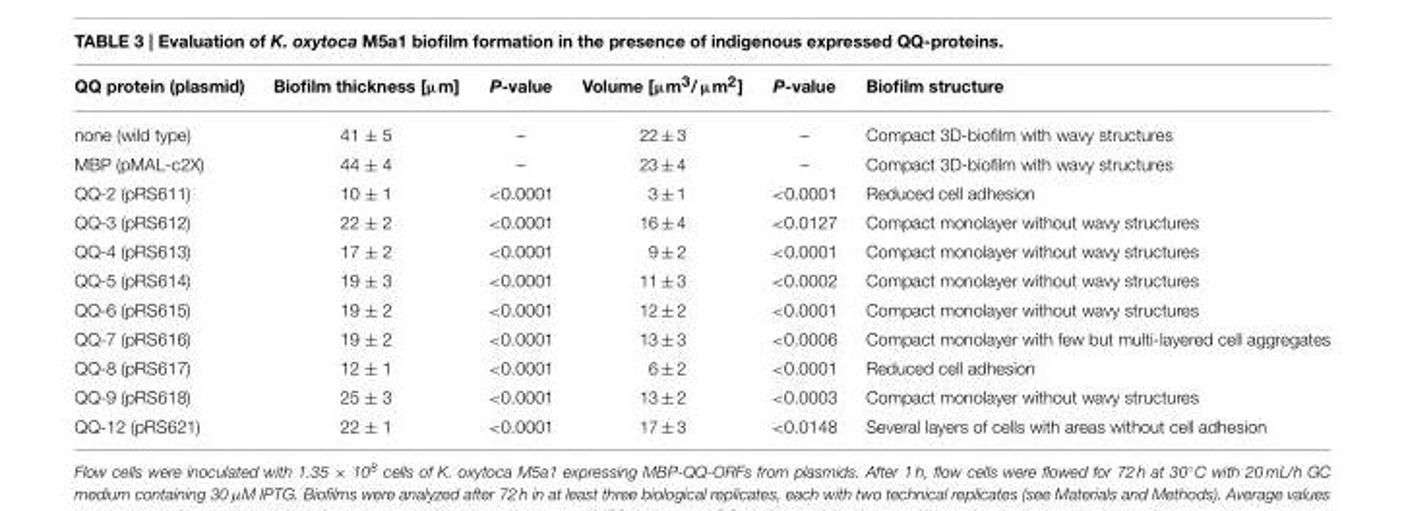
<table><thead><tr><td>QQ protein (plasmid)</td><td>Biofilm thickness [µm]</td><td>P-value</td><td>Volume [µm<sup>3</sup>/ µm<sup>2</sup>]</td><td>P-value</td><td>Biofilm structure</td></tr></thead><tbody><tr><td>none (wild type)</td><td>41 ± 5</td><td>–</td><td>22 ± 3</td><td>–</td><td>Compact 3D-biofilm with wavy structures</td></tr><tr><td>MBP (pMAL-c2X)</td><td>44 ± 4</td><td>–</td><td>23 ± 4</td><td>–</td><td>Compact 3D-biofilm with wavy structures</td></tr><tr><td>QQ-2 (pRS611)</td><td>10 ± 1</td><td>&lt;0.0001</td><td>3 ± 1</td><td>&lt;0.0001</td><td>Reduced cell adhesion</td></tr><tr><td>QQ-3 (pRS612)</td><td>22 ± 2</td><td>&lt;0.0001</td><td>16 ± 4</td><td>&lt;0.0127</td><td>Compact monolayer without wavy structures</td></tr><tr><td>QQ-4 (pRS613)</td><td>17 ± 2</td><td>&lt;0.0001</td><td>9 ± 2</td><td>&lt;0.0001</td><td>Compact monolayer without wavy structures</td></tr><tr><td>QQ-5 (pRS614)</td><td>19 ± 3</td><td>&lt;0.0001</td><td>11 ± 3</td><td>&lt;0.0002</td><td>Compact monolayer without wavy structures</td></tr><tr><td>QQ-6 (pRS615)</td><td>19 ± 2</td><td>&lt;0.0001</td><td>12 ± 2</td><td>&lt;0.0001</td><td>Compact monolayer without wavy structures</td></tr><tr><td>QQ-7 (pRS616)</td><td>19 ± 2</td><td>&lt;0.0001</td><td>13 ± 3</td><td>&lt;0.0006</td><td>Compact monolayer with few but multi-layered cell aggregates</td></tr><tr><td>QQ-8 (pRS617)</td><td>12 ± 1</td><td>&lt;0.0001</td><td>6 ± 2</td><td>&lt;0.0001</td><td>Reduced cell adhesion</td></tr><tr><td>QQ-9 (pRS618)</td><td>25 ± 3</td><td>&lt;0.0001</td><td>13 ± 2</td><td>&lt;0.0003</td><td>Compact monolayer without wavy structures</td></tr><tr><td>QQ-12 (pRS621)</td><td>22 ± 1</td><td>&lt;0.0001</td><td>17 ± 3</td><td>&lt;0.0148</td><td>Several layers of cells with areas without cell adhesion</td></tr></tbody></table>